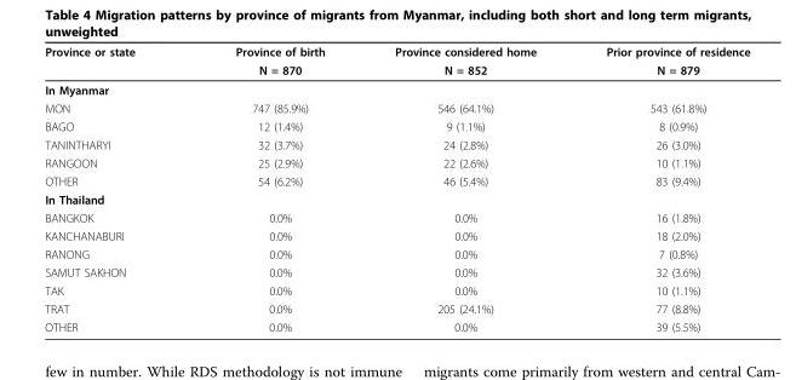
<table><thead><tr><td rowspan="2">Province or state</td><td rowspan="2">Province of birth N = 870</td><td rowspan="2">Province considered home N = 852</td><td rowspan="2">Prior province of residence N = 879</td></tr><tr></tr></thead><tbody><tr><td colspan="4">In Myanmar</td></tr><tr><td>MON</td><td>747 (85.9%)</td><td>546 (64.1%)</td><td>543 (61.8%)</td></tr><tr><td>BAGO</td><td>12 (1.4%)</td><td>9 (1.1%)</td><td>8 (0.9%)</td></tr><tr><td>TANINTHARYI</td><td>32 (3.7%)</td><td>24 (2.8%)</td><td>26 (3.0%)</td></tr><tr><td>RANGOON</td><td>25 (2.9%)</td><td>22 (2.6%)</td><td>10 (1.1%)</td></tr><tr><td>OTHER</td><td>54 (6.2%)</td><td>46 (5.4%)</td><td>83 (9.4%)</td></tr><tr><td colspan="4">In Thailand</td></tr><tr><td>BANGKOK</td><td>0.0%</td><td>0.0%</td><td>16 (1.8%)</td></tr><tr><td>KANCHANABURI</td><td>0.0%</td><td>0.0%</td><td>18 (2.0%)</td></tr><tr><td>RANONG</td><td>0.0%</td><td>0.0%</td><td>7 (0.8%)</td></tr><tr><td>SAMUT SAKHON</td><td>0.0%</td><td>0.0%</td><td>32 (3.6%)</td></tr><tr><td>TAK</td><td>0.0%</td><td>0.0%</td><td>10 (1.1%)</td></tr><tr><td>TRAT</td><td>0.0%</td><td>205 (24.1%)</td><td>77 (8.8%)</td></tr><tr><td>OTHER</td><td>0.0%</td><td>0.0%</td><td>39 (5.5%)</td></tr></tbody></table>